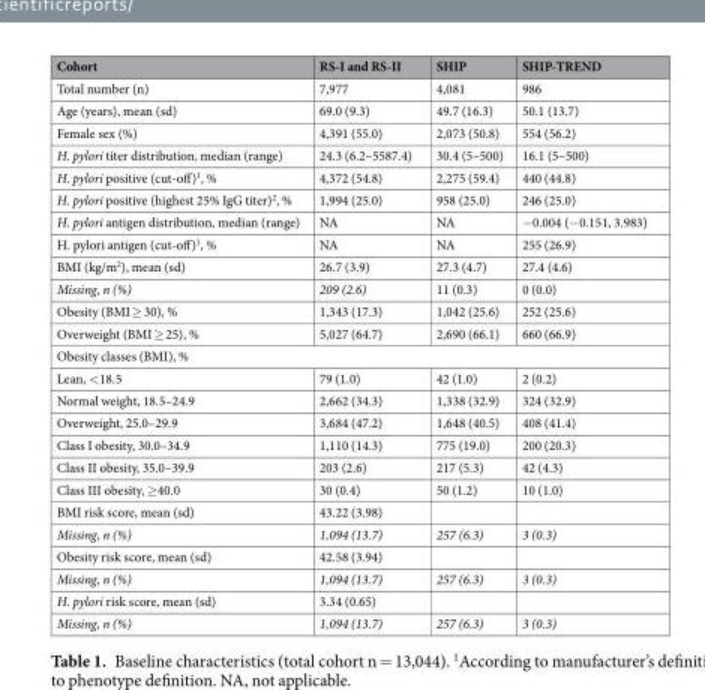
<table><thead><tr><td>Cohort</td><td>RS-I and RS-II</td><td>SHIP</td><td>SHIP-TREND</td></tr></thead><tbody><tr><td>Total number (n)</td><td>7,977</td><td>4,081</td><td>986</td></tr><tr><td>Age (years), mean (sd)</td><td>69.0 (9.3)</td><td>49.7 (16.3)</td><td>50.1 (13.7)</td></tr><tr><td>Female sex (%)</td><td>4,391 (55.0)</td><td>2,073 (50.8)</td><td>554 (56.2)</td></tr><tr><td>H. pylori titer distribution, median (range)</td><td>24.3 (6.2–5587.4)</td><td>30.4 (5–500)</td><td>16.1 (5–500)</td></tr><tr><td>H. pylori positive (cut-off)<sup>1</sup>, %</td><td>4,372 (54.8)</td><td>2,275 (59.4)</td><td>440 (44.8)</td></tr><tr><td>H. pylori positive (highest 25% IgG titer)<sup>2</sup>, %</td><td>1,994 (25.0)</td><td>958 (25.0)</td><td>246 (25.0)</td></tr><tr><td>H. pylori antigen distribution, median (range)</td><td>NA</td><td>NA</td><td>−0.004 (−0.151, 3.983)</td></tr><tr><td>H. pylori antigen (cut-off)<sup>1</sup>, %</td><td>NA</td><td>NA</td><td>255 (26.9)</td></tr><tr><td>BMI (kg/m<sup>2</sup>), mean (sd)</td><td>26.7 (3.9)</td><td>27.3 (4.7)</td><td>27.4 (4.6)</td></tr><tr><td>Missing, n (%)</td><td>209 (2.6)</td><td>11 (0.3)</td><td>0 (0.0)</td></tr><tr><td>Obesity (BMI ≥ 30), %</td><td>1,343 (17.3)</td><td>1,042 (25.6)</td><td>252 (25.6)</td></tr><tr><td>Overweight (BMI ≥ 25), %</td><td>5,027 (64.7)</td><td>2,690 (66.1)</td><td>660 (66.9)</td></tr><tr><td colspan="4">Obesity classes (BMI), %</td></tr><tr><td>Lean, &lt;18.5</td><td>79 (1.0)</td><td>42 (1.0)</td><td>2 (0.2)</td></tr><tr><td>Normal weight, 18.5–24.9</td><td>2,662 (34.3)</td><td>1,338 (32.9)</td><td>324 (32.9)</td></tr><tr><td>Overweight, 25.0–29.9</td><td>3,684 (47.2)</td><td>1,648 (40.5)</td><td>408 (41.4)</td></tr><tr><td>Class I obesity, 30.0–34.9</td><td>1,110 (14.3)</td><td>775 (19.0)</td><td>200 (20.3)</td></tr><tr><td>Class II obesity, 35.0–39.9</td><td>203 (2.6)</td><td>217 (5.3)</td><td>42 (4.3)</td></tr><tr><td>Class III obesity, ≥40.0</td><td>30 (0.4)</td><td>50 (1.2)</td><td>10 (1.0)</td></tr><tr><td>BMI risk score, mean (sd)</td><td>43.22 (3.98)</td><td></td><td></td></tr><tr><td>Missing, n (%)</td><td>1,094 (13.7)</td><td>257 (6.3)</td><td>3 (0.3)</td></tr><tr><td>Obesity risk score, mean (sd)</td><td>42.58 (3.94)</td><td></td><td></td></tr><tr><td>Missing, n (%)</td><td>1,094 (13.7)</td><td>257 (6.3)</td><td>3 (0.3)</td></tr><tr><td>H. pylori risk score, mean (sd)</td><td>3.34 (0.65)</td><td></td><td></td></tr><tr><td>Missing, n (%)</td><td>1,094 (13.7)</td><td>257 (6.3)</td><td>3 (0.3)</td></tr></tbody></table>